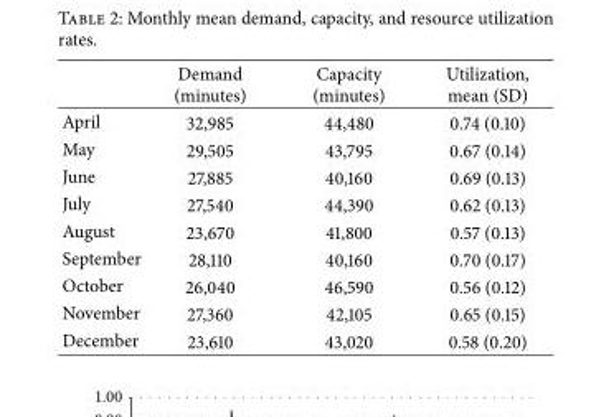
<table><thead><tr><td></td><td>Demand (minutes)</td><td>Capacity (minutes)</td><td>Utilization, mean (SD)</td></tr></thead><tbody><tr><td>April</td><td>32,985</td><td>44,480</td><td>0.74 (0.10)</td></tr><tr><td>May</td><td>29,505</td><td>43,795</td><td>0.67 (0.14)</td></tr><tr><td>June</td><td>27,885</td><td>40,160</td><td>0.69 (0.13)</td></tr><tr><td>July</td><td>27,540</td><td>44,390</td><td>0.62 (0.13)</td></tr><tr><td>August</td><td>23,670</td><td>41,800</td><td>0.57 (0.13)</td></tr><tr><td>September</td><td>28,110</td><td>40,160</td><td>0.70 (0.17)</td></tr><tr><td>October</td><td>26,040</td><td>46,590</td><td>0.56 (0.12)</td></tr><tr><td>November</td><td>27,360</td><td>42,105</td><td>0.65 (0.15)</td></tr><tr><td>December</td><td>23,610</td><td>43,020</td><td>0.58 (0.20)</td></tr></tbody></table>